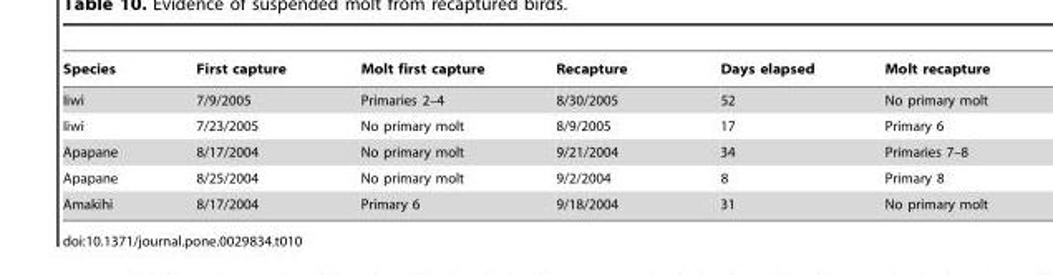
<table><thead><tr><td>Species</td><td>First capture</td><td>Molt first capture</td><td>Recapture</td><td>Days elapsed</td><td>Molt recapture</td></tr></thead><tbody><tr><td>Iiwi</td><td>7/9/2005</td><td>Primaries 2–4</td><td>8/30/2005</td><td>52</td><td>No primary molt</td></tr><tr><td>Iiwi</td><td>7/23/2005</td><td>No primary molt</td><td>8/9/2005</td><td>17</td><td>Primary 6</td></tr><tr><td>Apapane</td><td>8/17/2004</td><td>No primary molt</td><td>9/21/2004</td><td>34</td><td>Primaries 7–8</td></tr><tr><td>Apapane</td><td>8/25/2004</td><td>No primary molt</td><td>9/2/2004</td><td>8</td><td>Primary 8</td></tr><tr><td>Amakihi</td><td>8/17/2004</td><td>Primary 6</td><td>9/18/2004</td><td>31</td><td>No primary molt</td></tr></tbody></table>